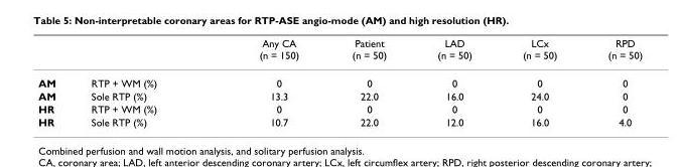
<table><thead><tr><td></td><td></td><td>Any CA (n = 150)</td><td>Patient (n = 50)</td><td>LAD (n = 50)</td><td>LCx (n = 50)</td><td>RPD (n = 50)</td></tr></thead><tbody><tr><td>AM</td><td>RTP + WM (%)</td><td>0</td><td>0</td><td>0</td><td>0</td><td>0</td></tr><tr><td>AM</td><td>Sole RTP (%)</td><td>13.3</td><td>22.0</td><td>16.0</td><td>24.0</td><td>0</td></tr><tr><td>HR</td><td>RTP + WM (%)</td><td>0</td><td>0</td><td>0</td><td>0</td><td>0</td></tr><tr><td>HR</td><td>Sole RTP (%)</td><td>10.7</td><td>22.0</td><td>12.0</td><td>16.0</td><td>4.0</td></tr></tbody></table>